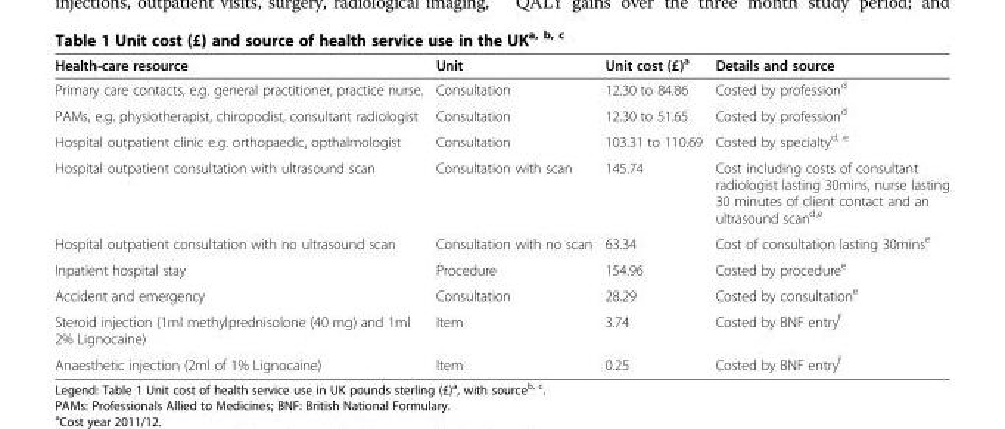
<table><thead><tr><td>Health-care resource</td><td>Unit</td><td>Unit cost (£)<sup>a</sup></td><td>Details and source</td></tr></thead><tbody><tr><td>Primary care contacts, e.g. general practitioner, practice nurse.</td><td>Consultation</td><td>12.30 to 84.86</td><td>Costed by profession<sup>d</sup></td></tr><tr><td>PAMs, e.g. physiotherapist, chiropodist, consultant radiologist</td><td>Consultation</td><td>12.30 to 51.65</td><td>Costed by profession<sup>d</sup></td></tr><tr><td>Hospital outpatient clinic e.g. orthopaedic, opthalmologist</td><td>Consultation</td><td>103.31 to 110.69</td><td>Costed by specialty<sup>d, e</sup></td></tr><tr><td>Hospital outpatient consultation with ultrasound scan</td><td>Consultation with scan</td><td>145.74</td><td>Cost including costs of consultant radiologist lasting 30mins, nurse lasting 30 minutes of client contact and an ultrasound scan<sup>d,e</sup></td></tr><tr><td>Hospital outpatient consultation with no ultrasound scan</td><td>Consultation with no scan</td><td>63.34</td><td>Cost of consultation lasting 30mins<sup>e</sup></td></tr><tr><td>Inpatient hospital stay</td><td>Procedure</td><td>154.96</td><td>Costed by procedure<sup>e</sup></td></tr><tr><td>Accident and emergency</td><td>Consultation</td><td>28.29</td><td>Costed by consultation<sup>e</sup></td></tr><tr><td>Steroid injection (1ml methylprednisolone (40 mg) and 1ml 2% Lignocaine)</td><td>Item</td><td>3.74</td><td>Costed by BNF entry<sup>f</sup></td></tr><tr><td>Anaesthetic injection (2ml of 1% Lignocaine)</td><td>Item</td><td>0.25</td><td>Costed by BNF entry<sup>f</sup></td></tr></tbody></table>